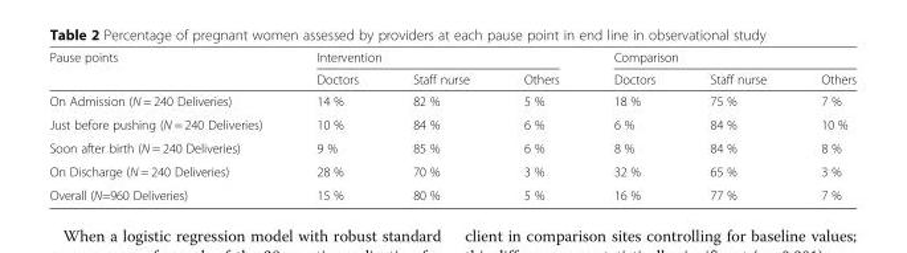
<table><thead><tr><td rowspan="2">Pause points</td><td colspan="3">Intervention</td><td colspan="3">Comparison</td></tr><tr><td>Doctors</td><td>Staff nurse</td><td>Others</td><td>Doctors</td><td>Staff nurse</td><td>Others</td></tr></thead><tbody><tr><td>On Admission (N = 240 Deliveries)</td><td>14 %</td><td>82 %</td><td>5 %</td><td>18 %</td><td>75 %</td><td>7 %</td></tr><tr><td>Just before pushing (N = 240 Deliveries)</td><td>10 %</td><td>84 %</td><td>6 %</td><td>6 %</td><td>84 %</td><td>10 %</td></tr><tr><td>Soon after birth (N = 240 Deliveries)</td><td>9 %</td><td>85 %</td><td>6 %</td><td>8 %</td><td>84 %</td><td>8 %</td></tr><tr><td>On Discharge (N = 240 Deliveries)</td><td>28 %</td><td>70 %</td><td>3 %</td><td>32 %</td><td>65 %</td><td>3 %</td></tr><tr><td>Overall (N=960 Deliveries)</td><td>15 %</td><td>80 %</td><td>5 %</td><td>16 %</td><td>77 %</td><td>7 %</td></tr></tbody></table>